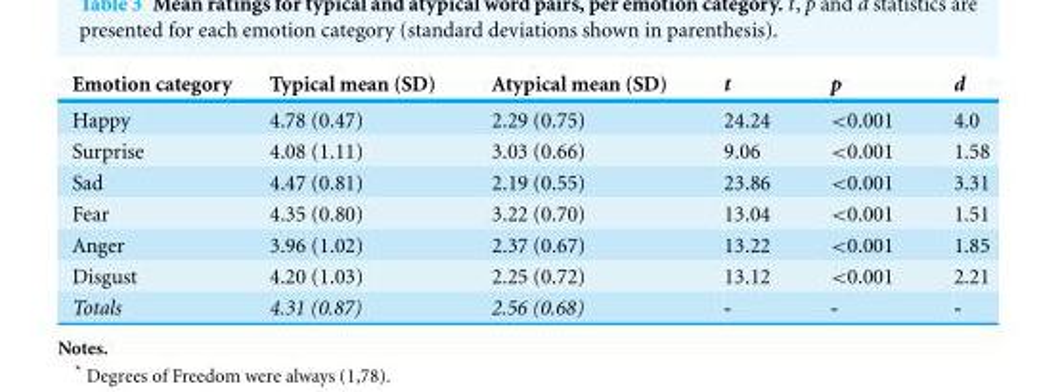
<table><thead><tr><td>Emotion category</td><td>Typical mean (SD)</td><td>Atypical mean (SD)</td><td>t</td><td>p</td><td>d</td></tr></thead><tbody><tr><td>Happy</td><td>4.78 (0.47)</td><td>2.29 (0.75)</td><td>24.24</td><td>&lt;0.001</td><td>4.0</td></tr><tr><td>Surprise</td><td>4.08 (1.11)</td><td>3.03 (0.66)</td><td>9.06</td><td>&lt;0.001</td><td>1.58</td></tr><tr><td>Sad</td><td>4.47 (0.81)</td><td>2.19 (0.55)</td><td>23.86</td><td>&lt;0.001</td><td>3.31</td></tr><tr><td>Fear</td><td>4.35 (0.80)</td><td>3.22 (0.70)</td><td>13.04</td><td>&lt;0.001</td><td>1.51</td></tr><tr><td>Anger</td><td>3.96 (1.02)</td><td>2.37 (0.67)</td><td>13.22</td><td>&lt;0.001</td><td>1.85</td></tr><tr><td>Disgust</td><td>4.20 (1.03)</td><td>2.25 (0.72)</td><td>13.12</td><td>&lt;0.001</td><td>2.21</td></tr><tr><td>Totals</td><td>4.31 (0.87)</td><td>2.56 (0.68)</td><td>-</td><td>-</td><td>-</td></tr></tbody></table>